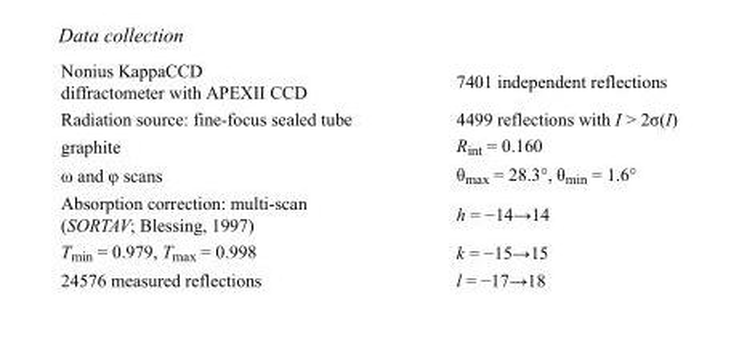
<table><tbody><tr><td>Nonius KappaCCD diffractometer with APEXII CCD</td><td>7401 independent reflections</td></tr><tr><td>Radiation source: fine-focus sealed tube</td><td>4499 reflections with I &gt; 2σ(I)</td></tr><tr><td>graphite</td><td>R<sub>int</sub> = 0.160</td></tr><tr><td>ω and φ scans</td><td>θ<sub>max</sub> = 28.3°, θ<sub>min</sub> = 1.6°</td></tr><tr><td>Absorption correction: multi-scan (SORTAV; Blessing, 1997)</td><td>h = −14→14</td></tr><tr><td>T<sub>min</sub> = 0.979, T<sub>max</sub> = 0.998</td><td>k = −15→15</td></tr><tr><td>24576 measured reflections</td><td>l = −17→18</td></tr></tbody></table>